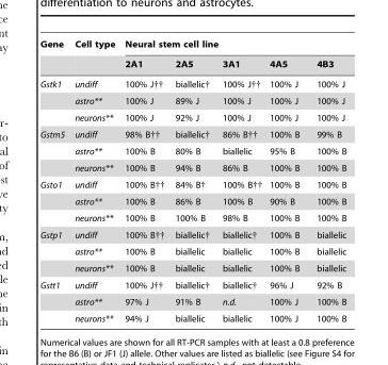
<table><thead><tr><td rowspan="2">Gene</td><td rowspan="2">Cell type</td><td colspan="5">Neural stem cell line</td></tr><tr><td>2A1</td><td>2A5</td><td>3A1</td><td>4A5</td><td>4B3</td></tr></thead><tbody><tr><td rowspan="3">Gstk1</td><td>undiff</td><td>100% J††</td><td>biallelic†</td><td>100% J††</td><td>100% J</td><td>100% J</td></tr><tr><td>astro**</td><td>100% J</td><td>89% J</td><td>100% J</td><td>100% J</td><td>100% J</td></tr><tr><td>neurons**</td><td>100% J</td><td>92% J</td><td>100% J</td><td>100% J</td><td>100% J</td></tr><tr><td rowspan="3">Gstm5</td><td>undiff</td><td>98% B††</td><td>biallelic†</td><td>86% B††</td><td>100% B</td><td>99% B</td></tr><tr><td>astro**</td><td>100% B</td><td>80% B</td><td>biallelic</td><td>95% B</td><td>100% B</td></tr><tr><td>neurons**</td><td>100% B</td><td>94% B</td><td>86% B</td><td>100% B</td><td>100% B</td></tr><tr><td rowspan="3">Gsto1</td><td>undiff</td><td>100% B††</td><td>84% B†</td><td>100% B††</td><td>100% B</td><td>100% B</td></tr><tr><td>astro**</td><td>100% B</td><td>86% B</td><td>100% B</td><td>90% B</td><td>100% B</td></tr><tr><td>neurons**</td><td>100% B</td><td>100% B</td><td>98% B</td><td>100% B</td><td>100% B</td></tr><tr><td rowspan="3">Gstp1</td><td>undiff</td><td>100% B††</td><td>biallelic†</td><td>biallelic†</td><td>100% B</td><td>biallelic</td></tr><tr><td>astro**</td><td>100% B</td><td>biallelic</td><td>biallelic</td><td>100% B</td><td>biallelic</td></tr><tr><td>neurons**</td><td>100% B</td><td>biallelic</td><td>biallelic</td><td>100% B</td><td>biallelic</td></tr><tr><td rowspan="3">Gstt1</td><td>undiff</td><td>100% J††</td><td>biallelic†</td><td>biallelic†</td><td>96% J</td><td>92% B</td></tr><tr><td>astro**</td><td>97% J</td><td>91% B</td><td>n.d.</td><td>100% J</td><td>100% B</td></tr><tr><td>neurons**</td><td>94% J</td><td>biallelic</td><td>biallelic</td><td>100% J</td><td>100% B</td></tr></tbody></table>